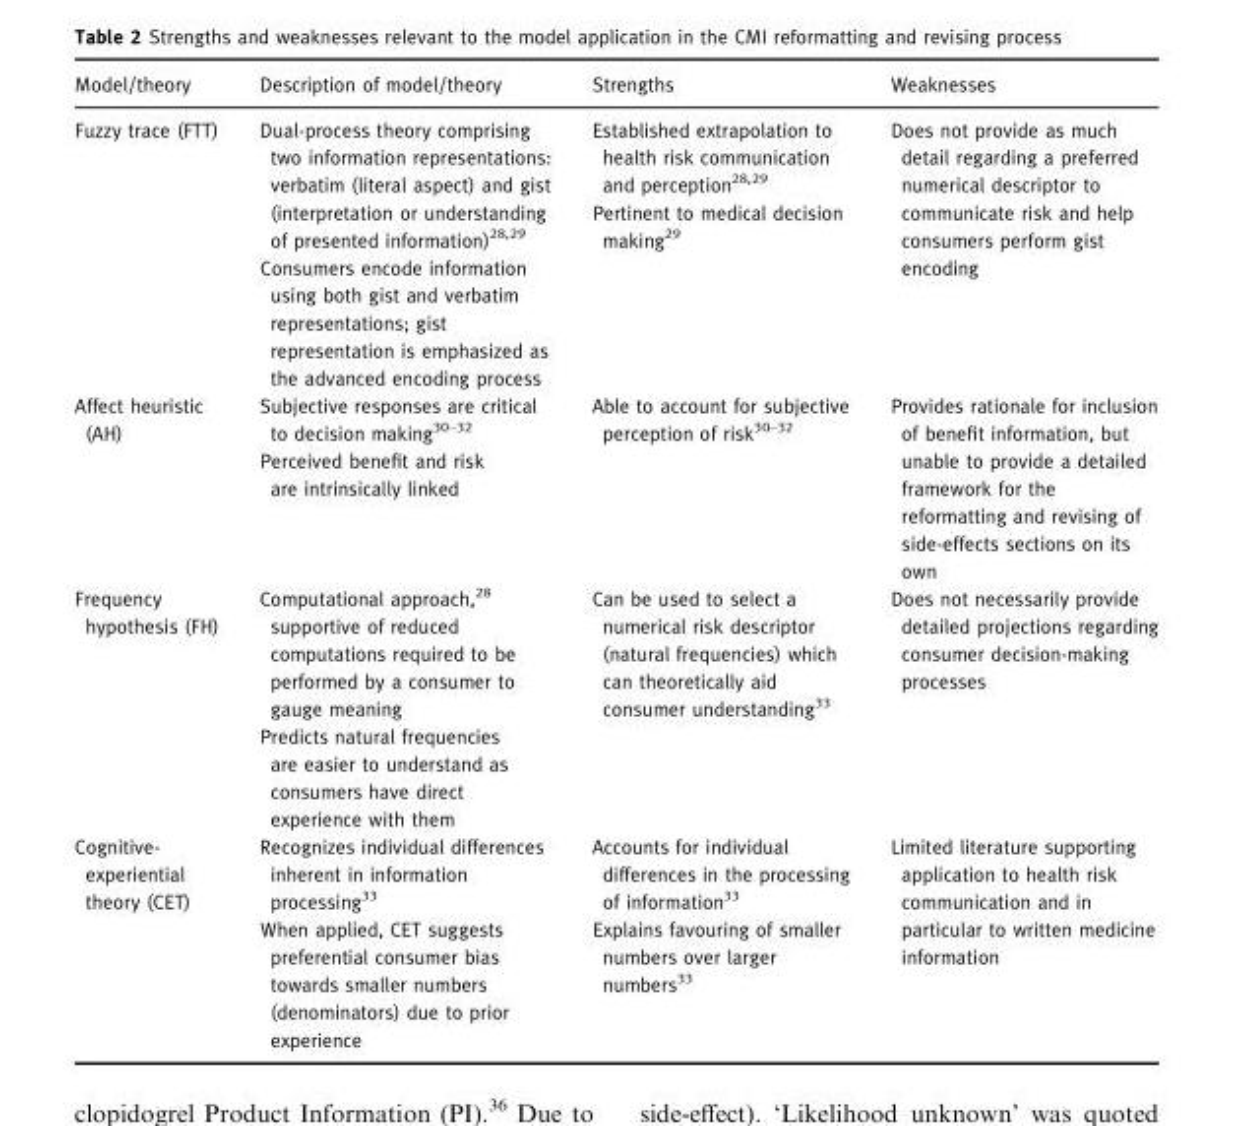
<table><thead><tr><td>Model/theory</td><td>Description of model/theory</td><td>Strengths</td><td>Weaknesses</td></tr></thead><tbody><tr><td>Fuzzy trace (FTT)</td><td>Dual-process theory comprising two information representations: verbatim (literal aspect) and gist (interpretation or understanding of presented information)<sup>28</sup>,<sup>29</sup> Consumers encode information using both gist and verbatim representations; gist representation is emphasized as the advanced encoding process</td><td>Established extrapolation to health risk communication and perception<sup>28</sup>,<sup>29</sup> Pertinent to medical decision making<sup>29</sup></td><td>Does not provide as much detail regarding a preferred numerical descriptor to communicate risk and help consumers perform gist encoding</td></tr><tr><td>Affect heuristic (AH)</td><td>Subjective responses are critical to decision making30–32 Perceived benefit and risk are intrinsically linked</td><td>Able to account for subjective perception of risk30–32</td><td>Provides rationale for inclusion of benefit information, but unable to provide a detailed framework for the reformatting and revising of side-effects sections on its own</td></tr><tr><td>Frequency hypothesis (FH)</td><td>Computational approach,<sup>28</sup> supportive of reduced computations required to be performed by a consumer to gauge meaning Predicts natural frequencies are easier to understand as consumers have direct experience with them</td><td>Can be used to select a numerical risk descriptor (natural frequencies) which can theoretically aid consumer understanding<sup>33</sup></td><td>Does not necessarily provide detailed projections regarding consumer decision-making processes</td></tr><tr><td>Cognitive- experiential theory (CET)</td><td>Recognizes individual differences inherent in information processing<sup>33</sup> When applied, CET suggests preferential consumer bias towards smaller numbers (denominators) due to prior experience</td><td>Accounts for individual differences in the processing of information<sup>33</sup> Explains favouring of smaller numbers over larger numbers<sup>33</sup></td><td>Limited literature supporting application to health risk communication and in particular to written medicine information</td></tr></tbody></table>